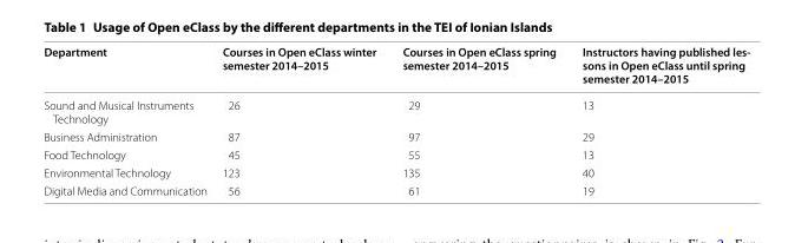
<table><thead><tr><td>Department</td><td>Courses in Open eClass winter semester 2014–2015</td><td>Courses in Open eClass spring semester 2014–2015</td><td>Instructors having published les- sons in Open eClass until spring semester 2014–2015</td></tr></thead><tbody><tr><td>Sound and Musical Instruments Technology</td><td>26</td><td>29</td><td>13</td></tr><tr><td>Business Administration</td><td>87</td><td>97</td><td>29</td></tr><tr><td>Food Technology</td><td>45</td><td>55</td><td>13</td></tr><tr><td>Environmental Technology</td><td>123</td><td>135</td><td>40</td></tr><tr><td>Digital Media and Communication</td><td>56</td><td>61</td><td>19</td></tr></tbody></table>